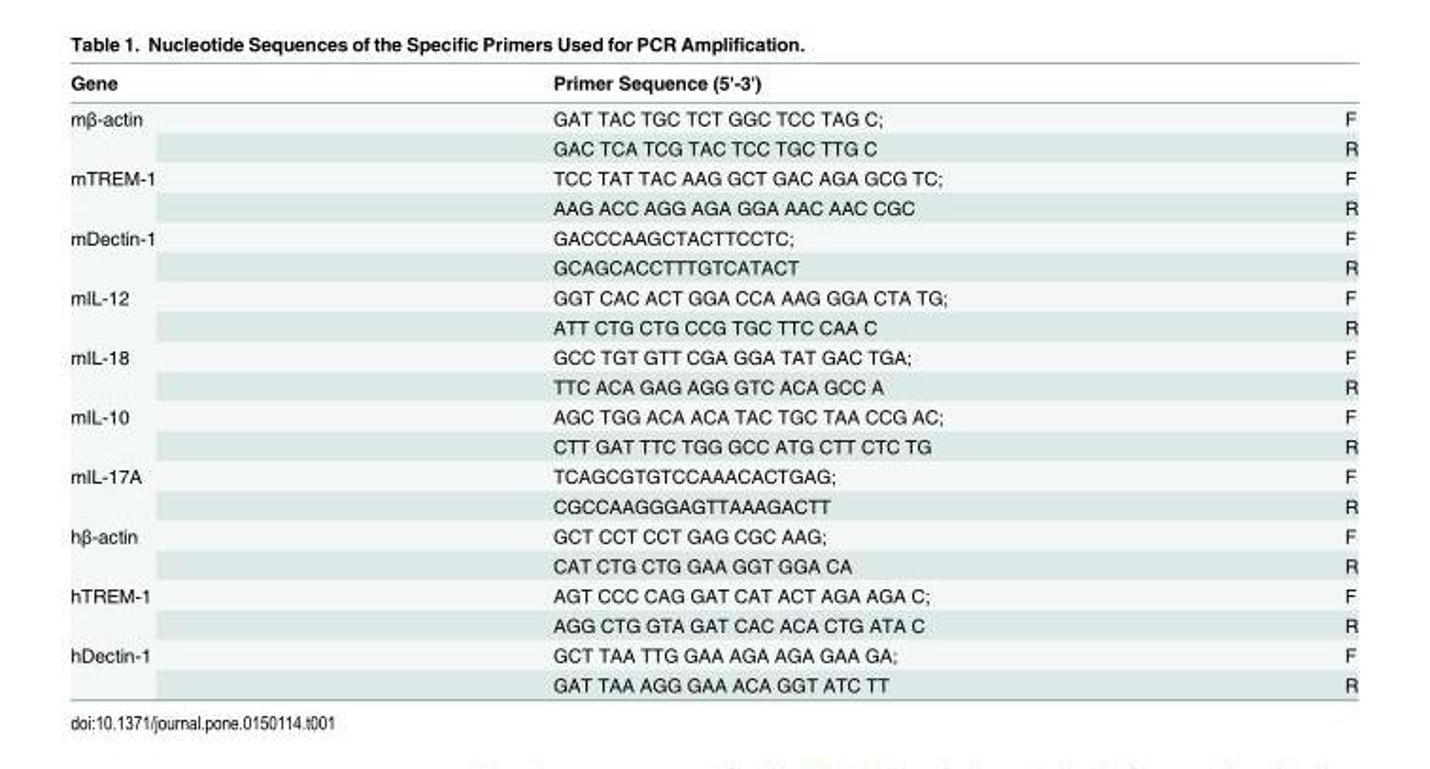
<table><thead><tr><td>Gene</td><td>Primer Sequence (5&#x27;-3&#x27;)</td><td></td></tr></thead><tbody><tr><td rowspan="2">mβ-actin</td><td>GAT TAC TGC TCT GGC TCC TAG C;</td><td>F</td></tr><tr><td>GAC TCA TCG TAC TCC TGC TTG C</td><td>R</td></tr><tr><td rowspan="2">mTREM-1</td><td>TCC TAT TAC AAG GCT GAC AGA GCG TC;</td><td>F</td></tr><tr><td>AAG ACC AGG AGA GGA AAC AAC CGC</td><td>R</td></tr><tr><td rowspan="2">mDectin-1</td><td>GACCCAAGCTACTTCCTC;</td><td>F</td></tr><tr><td>GCAGCACCTTTGTCATACT</td><td>R</td></tr><tr><td rowspan="2">mIL-12</td><td>GGT CAC ACT GGA CCA AAG GGA CTA TG;</td><td>F</td></tr><tr><td>ATT CTG CTG CCG TGC TTC CAA C</td><td>R</td></tr><tr><td rowspan="2">mIL-18</td><td>GCC TGT GTT CGA GGA TAT GAC TGA;</td><td>F</td></tr><tr><td>TTC ACA GAG AGG GTC ACA GCC A</td><td>R</td></tr><tr><td rowspan="2">mIL-10</td><td>AGC TGG ACA ACA TAC TGC TAA CCG AC;</td><td>F</td></tr><tr><td>CTT GAT TTC TGG GCC ATG CTT CTC TG</td><td>R</td></tr><tr><td rowspan="2">mIL-17A</td><td>TCAGCGTGTCCAAACACTGAG;</td><td>F</td></tr><tr><td>CGCCAAGGGAGTTAAAGACTT</td><td>R</td></tr><tr><td rowspan="2">hβ-actin</td><td>GCT CCT CCT GAG CGC AAG;</td><td>F</td></tr><tr><td>CAT CTG CTG GAA GGT GGA CA</td><td>R</td></tr><tr><td rowspan="2">hTREM-1</td><td>AGT CCC CAG GAT CAT ACT AGA AGA C;</td><td>F</td></tr><tr><td>AGG CTG GTA GAT CAC ACA CTG ATA C</td><td>R</td></tr><tr><td rowspan="2">hDectin-1</td><td>GCT TAA TTG GAA AGA AGA GAA GA;</td><td>F</td></tr><tr><td>GAT TAA AGG GAA ACA GGT ATC TT</td><td>R</td></tr></tbody></table>